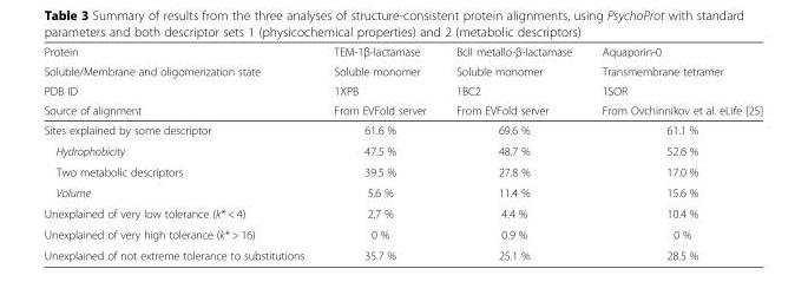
<table><thead><tr><td rowspan="4">Protein Soluble/Membrane and oligomerization state PDB ID Source of alignment</td><td rowspan="4">TEM-1β-lactamase Soluble monomer 1XPB From EVFold server</td><td rowspan="4">BcII metallo-β-lactamase Soluble monomer 1BC2 From EVFold server</td><td rowspan="4">Aquaporin-0 Transmembrane tetramer 1SOR From Ovchinnikov et al. eLife [25]</td></tr><tr></tr><tr></tr><tr></tr></thead><tbody><tr><td>Sites explained by some descriptor</td><td>61.6 %</td><td>69.6 %</td><td>61.1 %</td></tr><tr><td>Hydrophobicity</td><td>47.5 %</td><td>48.7 %</td><td>52.6 %</td></tr><tr><td>Two metabolic descriptors</td><td>39.5 %</td><td>27.8 %</td><td>17.0 %</td></tr><tr><td>Volume</td><td>5.6 %</td><td>11.4 %</td><td>15.6 %</td></tr><tr><td>Unexplained of very low tolerance (k* &lt; 4)</td><td>2.7 %</td><td>4.4 %</td><td>10.4 %</td></tr><tr><td>Unexplained of very high tolerance (k* &gt; 16)</td><td>0 %</td><td>0.9 %</td><td>0 %</td></tr><tr><td>Unexplained of not extreme tolerance to substitutions</td><td>35.7 %</td><td>25.1 %</td><td>28.5 %</td></tr></tbody></table>